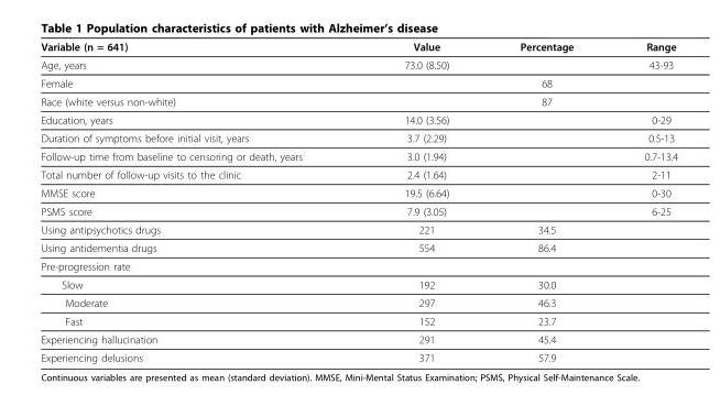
<table><thead><tr><td>Variable (n = 641)</td><td>Value</td><td>Percentage</td><td>Range</td></tr></thead><tbody><tr><td>Age, years</td><td>73.0 (8.50)</td><td></td><td>43-93</td></tr><tr><td>Female</td><td></td><td>68</td><td></td></tr><tr><td>Race (white versus non-white)</td><td></td><td>87</td><td></td></tr><tr><td>Education, years</td><td>14.0 (3.56)</td><td></td><td>0-29</td></tr><tr><td>Duration of symptoms before initial visit, years</td><td>3.7 (2.29)</td><td></td><td>0.5-13</td></tr><tr><td>Follow-up time from baseline to censoring or death, years</td><td>3.0 (1.94)</td><td></td><td>0.7-13.4</td></tr><tr><td>Total number of follow-up visits to the clinic</td><td>2.4 (1.64)</td><td></td><td>2-11</td></tr><tr><td>MMSE score</td><td>19.5 (6.64)</td><td></td><td>0-30</td></tr><tr><td>PSMS score</td><td>7.9 (3.05)</td><td></td><td>6-25</td></tr><tr><td>Using antipsychotics drugs</td><td>221</td><td>34.5</td><td></td></tr><tr><td>Using antidementia drugs</td><td>554</td><td>86.4</td><td></td></tr><tr><td colspan="4">Pre-progression rate</td></tr><tr><td>Slow</td><td>192</td><td>30.0</td><td></td></tr><tr><td>Moderate</td><td>297</td><td>46.3</td><td></td></tr><tr><td>Fast</td><td>152</td><td>23.7</td><td></td></tr><tr><td>Experiencing hallucination</td><td>291</td><td>45.4</td><td></td></tr><tr><td>Experiencing delusions</td><td>371</td><td>57.9</td><td></td></tr></tbody></table>